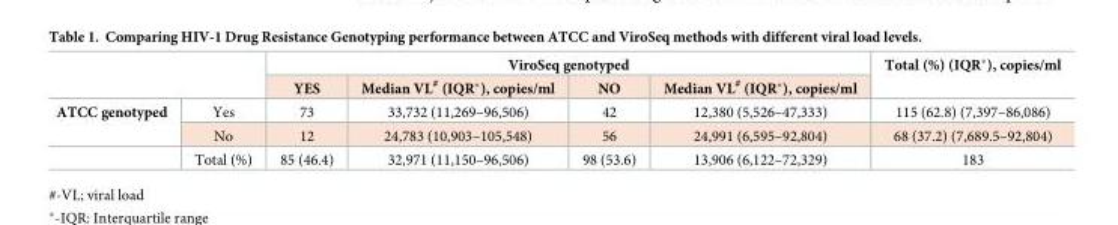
<table><thead><tr><td rowspan="2"></td><td rowspan="2"></td><td colspan="4">ViroSeq genotyped</td><td rowspan="2">Total (%) (IQR*), copies/ml</td></tr><tr><td>YES</td><td>Median VL<sup>#</sup> (IQR*), copies/ml</td><td>NO</td><td>Median VL<sup>#</sup> (IQR*), copies/ml</td></tr></thead><tbody><tr><td rowspan="3">ATCC genotyped</td><td>Yes</td><td>73</td><td>33,732 (11,269–96,506)</td><td>42</td><td>12,380 (5,526–47,333)</td><td>115 (62.8) (7,397–86,086)</td></tr><tr><td>No</td><td>12</td><td>24,783 (10,903–105,548)</td><td>56</td><td>24,991 (6,595–92,804)</td><td>68 (37.2) (7,689.5–92,804)</td></tr><tr><td>Total (%)</td><td>85 (46.4)</td><td>32,971 (11,150–96,506)</td><td>98 (53.6)</td><td>13,906 (6,122–72,329)</td><td>183</td></tr></tbody></table>